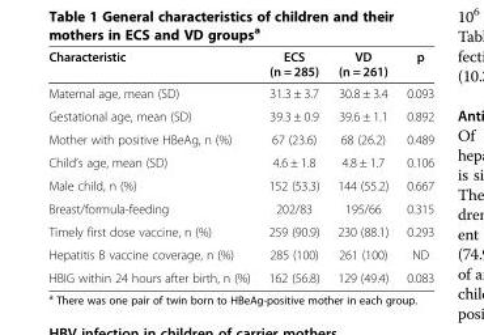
<table><thead><tr><td>Characteristic</td><td>ECS (n = 285)</td><td>VD (n = 261)</td><td>p</td></tr></thead><tbody><tr><td>Maternal age, mean (SD)</td><td>31.3 ± 3.7</td><td>30.8 ± 3.4</td><td>0.093</td></tr><tr><td>Gestational age, mean (SD)</td><td>39.3 ± 0.9</td><td>39.6 ± 1.1</td><td>0.892</td></tr><tr><td>Mother with positive HBeAg, n (%)</td><td>67 (23.6)</td><td>68 (26.2)</td><td>0.489</td></tr><tr><td>Child’s age, mean (SD)</td><td>4.6 ± 1.8</td><td>4.8 ± 1.7</td><td>0.106</td></tr><tr><td>Male child, n (%)</td><td>152 (53.3)</td><td>144 (55.2)</td><td>0.667</td></tr><tr><td>Breast/formula-feeding</td><td>202/83</td><td>195/66</td><td>0.315</td></tr><tr><td>Timely first dose vaccine, n (%)</td><td>259 (90.9)</td><td>230 (88.1)</td><td>0.293</td></tr><tr><td>Hepatitis B vaccine coverage, n (%)</td><td>285 (100)</td><td>261 (100)</td><td>ND</td></tr><tr><td>HBIG within 24 hours after birth, n (%)</td><td>162 (56.8)</td><td>129 (49.4)</td><td>0.083</td></tr></tbody></table>